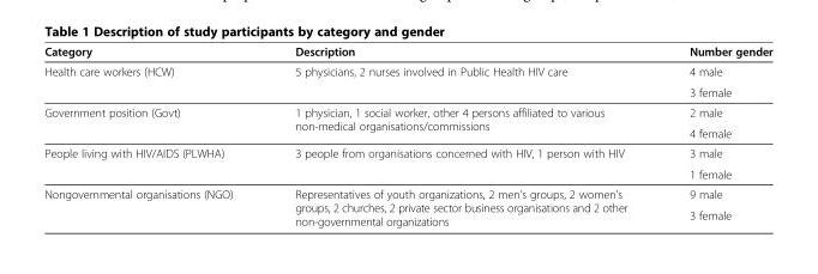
<table><thead><tr><td>Category</td><td>Description</td><td>Number gender</td></tr></thead><tbody><tr><td rowspan="2">Health care workers (HCW)</td><td rowspan="2">5 physicians, 2 nurses involved in Public Health HIV care</td><td>4 male</td></tr><tr><td>3 female</td></tr><tr><td rowspan="2">Government position (Govt)</td><td rowspan="2">1 physician, 1 social worker, other 4 persons affiliated to various non-medical organisations/commissions</td><td>2 male</td></tr><tr><td>4 female</td></tr><tr><td rowspan="2">People living with HIV/AIDS (PLWHA)</td><td rowspan="2">3 people from organisations concerned with HIV, 1 person with HIV</td><td>3 male</td></tr><tr><td>1 female</td></tr><tr><td rowspan="2">Nongovernmental organisations (NGO)</td><td rowspan="2">Representatives of youth organizations, 2 men’s groups, 2 women’s groups, 2 churches, 2 private sector business organisations and 2 other non-governmental organizations</td><td>9 male</td></tr><tr><td>3 female</td></tr></tbody></table>